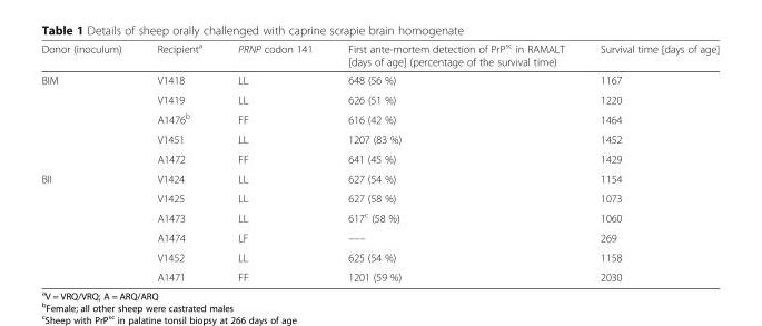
<table><thead><tr><td>Donor (inoculum)</td><td>Recipient<sup>a</sup></td><td>PRNP codon 141</td><td>First ante-mortem detection of PrP<sup>sc</sup> in RAMALT [days of age] (percentage of the survival time)</td><td>Survival time [days of age]</td></tr></thead><tbody><tr><td rowspan="5">BIM</td><td>V1418</td><td>LL</td><td>648 (56 %)</td><td>1167</td></tr><tr><td>V1419</td><td>LL</td><td>626 (51 %)</td><td>1220</td></tr><tr><td>A1476<sup>b</sup></td><td>FF</td><td>616 (42 %)</td><td>1464</td></tr><tr><td>V1451</td><td>LL</td><td>1207 (83 %)</td><td>1452</td></tr><tr><td>A1472</td><td>FF</td><td>641 (45 %)</td><td>1429</td></tr><tr><td rowspan="6">BII</td><td>V1424</td><td>LL</td><td>627 (54 %)</td><td>1154</td></tr><tr><td>V1425</td><td>LL</td><td>627 (58 %)</td><td>1073</td></tr><tr><td>A1473</td><td>LL</td><td>617<sup>c</sup> (58 %)</td><td>1060</td></tr><tr><td>A1474</td><td>LF</td><td>–––</td><td>269</td></tr><tr><td>V1452</td><td>LL</td><td>625 (54 %)</td><td>1158</td></tr><tr><td>A1471</td><td>FF</td><td>1201 (59 %)</td><td>2030</td></tr></tbody></table>